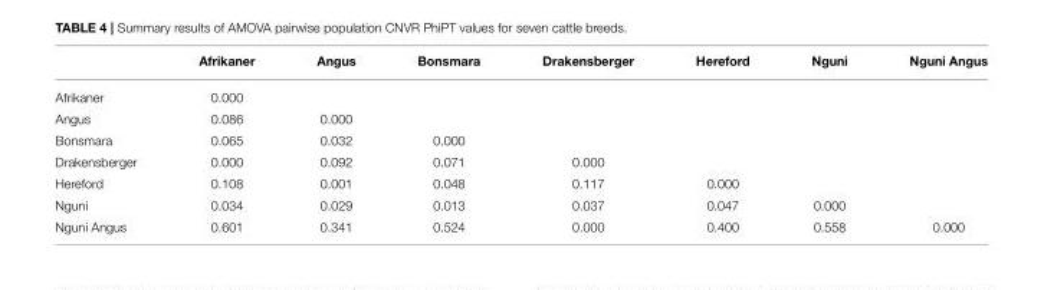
<table><thead><tr><td></td><td>Afrikaner</td><td>Angus</td><td>Bonsmara</td><td>Drakensberger</td><td>Hereford</td><td>Nguni</td><td>Nguni Angus</td></tr></thead><tbody><tr><td>Afrikaner</td><td>0.000</td><td></td><td></td><td></td><td></td><td></td><td></td></tr><tr><td>Angus</td><td>0.086</td><td>0.000</td><td></td><td></td><td></td><td></td><td></td></tr><tr><td>Bonsmara</td><td>0.065</td><td>0.032</td><td>0.000</td><td></td><td></td><td></td><td></td></tr><tr><td>Drakensberger</td><td>0.000</td><td>0.092</td><td>0.071</td><td>0.000</td><td></td><td></td><td></td></tr><tr><td>Hereford</td><td>0.108</td><td>0.001</td><td>0.048</td><td>0.117</td><td>0.000</td><td></td><td></td></tr><tr><td>Nguni</td><td>0.034</td><td>0.029</td><td>0.013</td><td>0.037</td><td>0.047</td><td>0.000</td><td></td></tr><tr><td>Nguni Angus</td><td>0.601</td><td>0.341</td><td>0.524</td><td>0.000</td><td>0.400</td><td>0.558</td><td>0.000</td></tr></tbody></table>